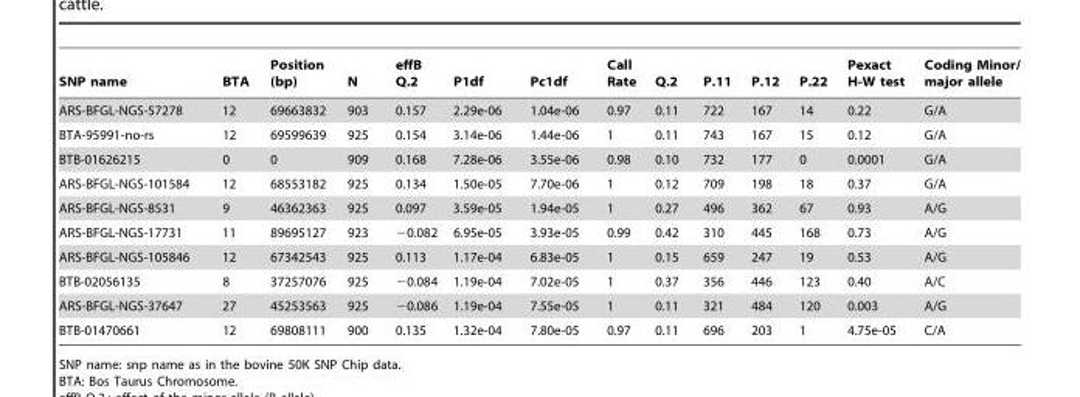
<table><thead><tr><td>SNP name</td><td>BTA</td><td>Position (bp)</td><td>N</td><td>effB Q.2</td><td>P1df</td><td>Pc1df</td><td>Call Rate</td><td>Q.2</td><td>P.11</td><td>P.12</td><td>P.22</td><td>Pexact H-W test</td><td>Coding Minor/ major allele</td></tr></thead><tbody><tr><td>ARS-BFGL-NGS-57278</td><td>12</td><td>69663832</td><td>903</td><td>0.157</td><td>2.29e-06</td><td>1.04e-06</td><td>0.97</td><td>0.11</td><td>722</td><td>167</td><td>14</td><td>0.22</td><td>G/A</td></tr><tr><td>BTA-95991-no-rs</td><td>12</td><td>69599639</td><td>925</td><td>0.154</td><td>3.14e-06</td><td>1.44e-06</td><td>1</td><td>0.11</td><td>743</td><td>167</td><td>15</td><td>0.12</td><td>G/A</td></tr><tr><td>BTB-01626215</td><td>0</td><td>0</td><td>909</td><td>0.168</td><td>7.28e-06</td><td>3.55e-06</td><td>0.98</td><td>0.10</td><td>732</td><td>177</td><td>0</td><td>0.0001</td><td>G/A</td></tr><tr><td>ARS-BFGL-NGS-101584</td><td>12</td><td>68553182</td><td>925</td><td>0.134</td><td>1.50e-05</td><td>7.70e-06</td><td>1</td><td>0.12</td><td>709</td><td>198</td><td>18</td><td>0.37</td><td>G/A</td></tr><tr><td>ARS-BFGL-NGS-8531</td><td>9</td><td>46362363</td><td>925</td><td>0.097</td><td>3.59e-05</td><td>1.94e-05</td><td>1</td><td>0.27</td><td>496</td><td>362</td><td>67</td><td>0.93</td><td>A/G</td></tr><tr><td>ARS-BFGL-NGS-17731</td><td>11</td><td>89695127</td><td>923</td><td>−0.082</td><td>6.95e-05</td><td>3.93e-05</td><td>0.99</td><td>0.42</td><td>310</td><td>445</td><td>168</td><td>0.73</td><td>A/G</td></tr><tr><td>ARS-BFGL-NGS-105846</td><td>12</td><td>67342543</td><td>925</td><td>0.113</td><td>1.17e-04</td><td>6.83e-05</td><td>1</td><td>0.15</td><td>659</td><td>247</td><td>19</td><td>0.53</td><td>A/G</td></tr><tr><td>BTB-02056135</td><td>8</td><td>37257076</td><td>925</td><td>−0.084</td><td>1.19e-04</td><td>7.02e-05</td><td>1</td><td>0.37</td><td>356</td><td>446</td><td>123</td><td>0.40</td><td>A/C</td></tr><tr><td>ARS-BFGL-NGS-37647</td><td>27</td><td>45253563</td><td>925</td><td>−0.086</td><td>1.19e-04</td><td>7.55e-05</td><td>1</td><td>0.11</td><td>321</td><td>484</td><td>120</td><td>0.003</td><td>A/G</td></tr><tr><td>BTB-01470661</td><td>12</td><td>69808111</td><td>900</td><td>0.135</td><td>1.32e-04</td><td>7.80e-05</td><td>0.97</td><td>0.11</td><td>696</td><td>203</td><td>1</td><td>4.75e-05</td><td>C/A</td></tr></tbody></table>